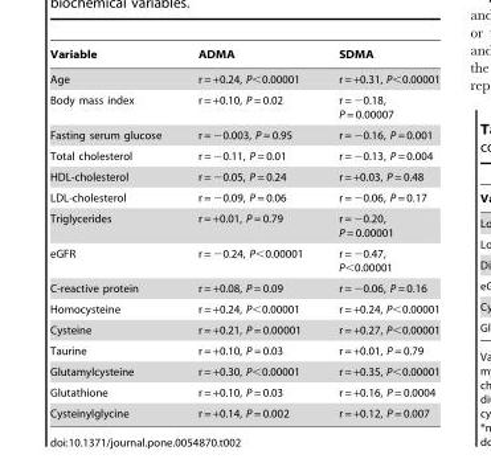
<table><thead><tr><td>Variable</td><td>ADMA</td><td>SDMA</td></tr></thead><tbody><tr><td>Age</td><td>r = +0.24, P&lt;0.00001</td><td>r = +0.31, P&lt;0.00001</td></tr><tr><td>Body mass index</td><td>r = +0.10, P = 0.02</td><td>r = −0.18, P = 0.00007</td></tr><tr><td>Fasting serum glucose</td><td>r = −0.003, P = 0.95</td><td>r = −0.16, P = 0.001</td></tr><tr><td>Total cholesterol</td><td>r = −0.11, P = 0.01</td><td>r = −0.13, P = 0.004</td></tr><tr><td>HDL-cholesterol</td><td>r = −0.05, P = 0.24</td><td>r = +0.03, P = 0.48</td></tr><tr><td>LDL-cholesterol</td><td>r = −0.09, P = 0.06</td><td>r = −0.06, P = 0.17</td></tr><tr><td>Triglycerides</td><td>r = +0.01, P = 0.79</td><td>r = −0.20, P = 0.00001</td></tr><tr><td>eGFR</td><td>r = −0.24, P&lt;0.00001</td><td>r = −0.47, P&lt;0.00001</td></tr><tr><td>C-reactive protein</td><td>r = +0.08, P = 0.09</td><td>r = −0.06, P = 0.16</td></tr><tr><td>Homocysteine</td><td>r = +0.24, P&lt;0.00001</td><td>r = +0.24, P&lt;0.00001</td></tr><tr><td>Cysteine</td><td>r = +0.21, P = 0.00001</td><td>r = +0.27, P&lt;0.00001</td></tr><tr><td>Taurine</td><td>r = +0.10, P = 0.03</td><td>r = +0.01, P = 0.79</td></tr><tr><td>Glutamylcysteine</td><td>r = +0.30, P&lt;0.00001</td><td>r = +0.35, P&lt;0.00001</td></tr><tr><td>Glutathione</td><td>r = +0.10, P = 0.03</td><td>r = +0.16, P = 0.0004</td></tr><tr><td>Cysteinylglycine</td><td>r = +0.14, P = 0.002</td><td>r = +0.12, P = 0.007</td></tr></tbody></table>